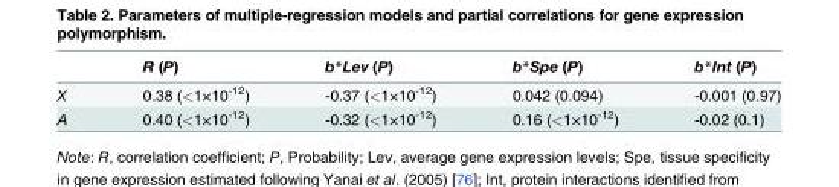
<table><thead><tr><td></td><td>R (P)</td><td>b*Lev (P)</td><td>b*Spe (P)</td><td>b*Int (P)</td></tr></thead><tbody><tr><td>X</td><td>0.38 (&lt;1×10<sup>-12</sup>)</td><td>-0.37 (&lt;1×10<sup>-12</sup>)</td><td>0.042 (0.094)</td><td>-0.001 (0.97)</td></tr><tr><td>A</td><td>0.40 (&lt;1×10<sup>-12</sup>)</td><td>-0.32 (&lt;1×10<sup>-12</sup>)</td><td>0.16 (&lt;1×10<sup>-12</sup>)</td><td>-0.02 (0.1)</td></tr></tbody></table>